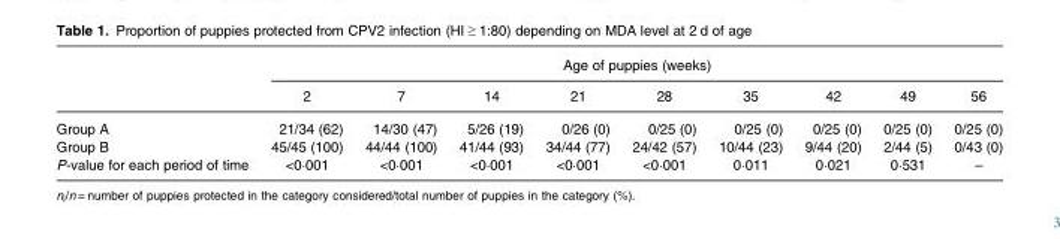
<table><thead><tr><td rowspan="2"></td><td colspan="9">Age of puppies (weeks)</td></tr><tr><td>2</td><td>7</td><td>14</td><td>21</td><td>28</td><td>35</td><td>42</td><td>49</td><td>56</td></tr></thead><tbody><tr><td>Group A</td><td>21/34 (62)</td><td>14/30 (47)</td><td>5/26 (19)</td><td>0/26 (0)</td><td>0/25 (0)</td><td>0/25 (0)</td><td>0/25 (0)</td><td>0/25 (0)</td><td>0/25 (0)</td></tr><tr><td>Group B</td><td>45/45 (100)</td><td>44/44 (100)</td><td>41/44 (93)</td><td>34/44 (77)</td><td>24/42 (57)</td><td>10/44 (23)</td><td>9/44 (20)</td><td>2/44 (5)</td><td>0/43 (0)</td></tr><tr><td>P-value for each period of time</td><td>&lt;0·001</td><td>&lt;0·001</td><td>&lt;0·001</td><td>&lt;0·001</td><td>&lt;0·001</td><td>0·011</td><td>0·021</td><td>0·531</td><td>–</td></tr></tbody></table>